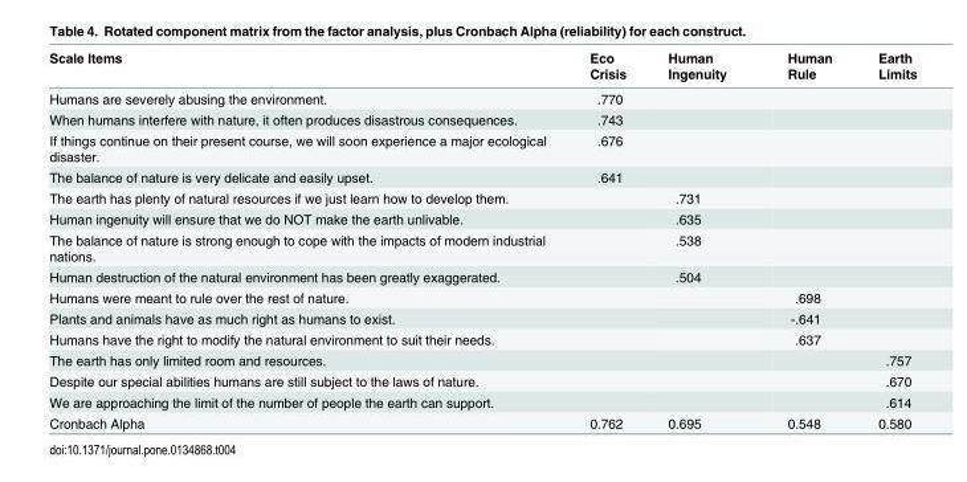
<table><thead><tr><td>Scale Items</td><td>Eco Crisis</td><td>Human Ingenuity</td><td>Human Rule</td><td>Earth Limits</td></tr></thead><tbody><tr><td>Humans are severely abusing the environment.</td><td>.770</td><td></td><td></td><td></td></tr><tr><td>When humans interfere with nature, it often produces disastrous consequences.</td><td>.743</td><td></td><td></td><td></td></tr><tr><td>If things continue on their present course, we will soon experience a major ecological disaster.</td><td>.676</td><td></td><td></td><td></td></tr><tr><td>The balance of nature is very delicate and easily upset.</td><td>.641</td><td></td><td></td><td></td></tr><tr><td>The earth has plenty of natural resources if we just learn how to develop them.</td><td></td><td>.731</td><td></td><td></td></tr><tr><td>Human ingenuity will ensure that we do NOT make the earth unlivable.</td><td></td><td>.635</td><td></td><td></td></tr><tr><td>The balance of nature is strong enough to cope with the impacts of modern industrial nations.</td><td></td><td>.538</td><td></td><td></td></tr><tr><td>Human destruction of the natural environment has been greatly exaggerated.</td><td></td><td>.504</td><td></td><td></td></tr><tr><td>Humans were meant to rule over the rest of nature.</td><td></td><td></td><td>.698</td><td></td></tr><tr><td>Plants and animals have as much right as humans to exist.</td><td></td><td></td><td>-.641</td><td></td></tr><tr><td>Humans have the right to modify the natural environment to suit their needs.</td><td></td><td></td><td>.637</td><td></td></tr><tr><td>The earth has only limited room and resources.</td><td></td><td></td><td></td><td>.757</td></tr><tr><td>Despite our special abilities humans are still subject to the laws of nature.</td><td></td><td></td><td></td><td>.670</td></tr><tr><td>We are approaching the limit of the number of people the earth can support.</td><td></td><td></td><td></td><td>.614</td></tr><tr><td>Cronbach Alpha</td><td>0.762</td><td>0.695</td><td>0.548</td><td>0.580</td></tr></tbody></table>